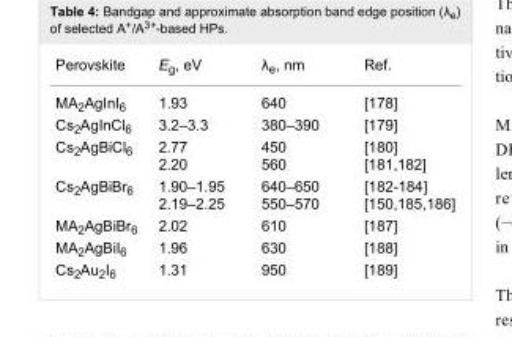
<table><tbody><tr><td>Perovskite</td><td>E<sub>g</sub>, eV</td><td>λ<sub>e</sub>, nm</td><td>Ref.</td></tr><tr><td>MA<sub>2</sub>AgInI<sub>6</sub></td><td>1.93</td><td>640</td><td>[178]</td></tr><tr><td>Cs<sub>2</sub>AgInCl<sub>6</sub></td><td>3.2–3.3</td><td>380–390</td><td>[179]</td></tr><tr><td>Cs<sub>2</sub>AgBiCl<sub>6</sub></td><td>2.77 2.20</td><td>450 560</td><td>[180] [181–182]</td></tr><tr><td>Cs<sub>2</sub>AgBiBr<sub>6</sub></td><td>1.90–1.95 2.19–2.25</td><td>640–650 550–570</td><td>[182-184] [150,185–186]</td></tr><tr><td>MA<sub>2</sub>AgBiBr<sub>6</sub></td><td>2.02</td><td>610</td><td>[187]</td></tr><tr><td>MA<sub>2</sub>AgBiI<sub>6</sub></td><td>1.96</td><td>630</td><td>[188]</td></tr><tr><td>Cs<sub>2</sub>Au<sub>2</sub>I<sub>6</sub></td><td>1.31</td><td>950</td><td>[189]</td></tr></tbody></table>